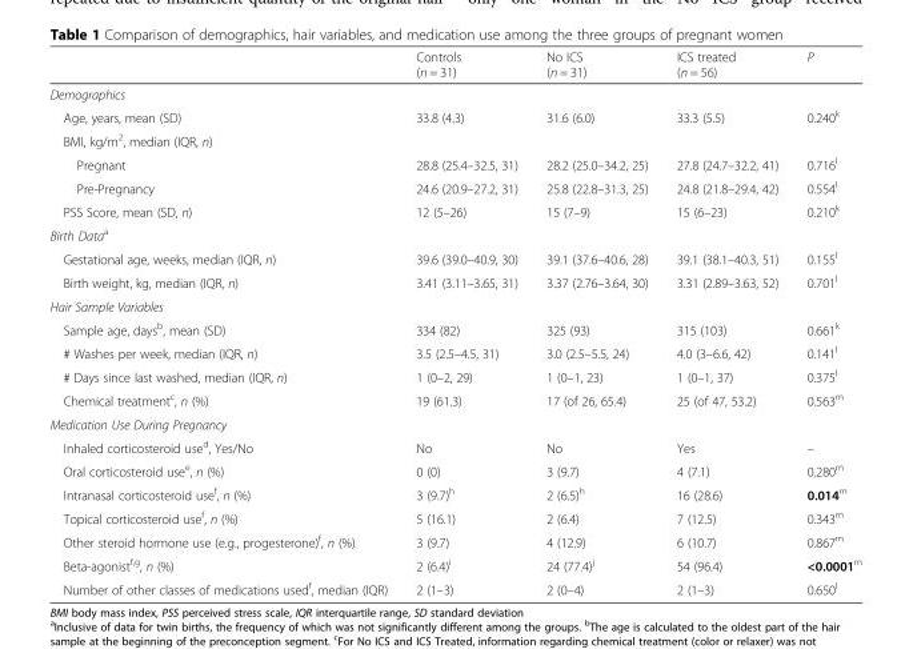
<table><thead><tr><td></td><td>Controls (n = 31)</td><td>No ICS (n = 31)</td><td>ICS treated (n = 56)</td><td>P</td></tr></thead><tbody><tr><td colspan="5">Demographics</td></tr><tr><td>Age, years, mean (SD)</td><td>33.8 (4.3)</td><td>31.6 (6.0)</td><td>33.3 (5.5)</td><td>0.240<sup>k</sup></td></tr><tr><td colspan="5">BMI, kg/m<sup>2</sup>, median (IQR, n)</td></tr><tr><td>Pregnant</td><td>28.8 (25.4–32.5, 31)</td><td>28.2 (25.0–34.2, 25)</td><td>27.8 (24.7–32.2, 41)</td><td>0.716<sup>l</sup></td></tr><tr><td>Pre-Pregnancy</td><td>24.6 (20.9–27.2, 31)</td><td>25.8 (22.8–31.3, 25)</td><td>24.8 (21.8–29.4, 42)</td><td>0.554<sup>l</sup></td></tr><tr><td>PSS Score, mean (SD, n)</td><td>12 (5–26)</td><td>15 (7–9)</td><td>15 (6–23)</td><td>0.210<sup>k</sup></td></tr><tr><td colspan="5">Birth Data<sup>a</sup></td></tr><tr><td>Gestational age, weeks, median (IQR, n)</td><td>39.6 (39.0–40.9, 30)</td><td>39.1 (37.6–40.6, 28)</td><td>39.1 (38.1–40.3, 51)</td><td>0.155<sup>l</sup></td></tr><tr><td>Birth weight, kg, median (IQR, n)</td><td>3.41 (3.11–3.65, 31)</td><td>3.37 (2.76–3.64, 30)</td><td>3.31 (2.89–3.63, 52)</td><td>0.701<sup>l</sup></td></tr><tr><td colspan="5">Hair Sample Variables</td></tr><tr><td>Sample age, days<sup>b</sup>, mean (SD)</td><td>334 (82)</td><td>325 (93)</td><td>315 (103)</td><td>0.661<sup>k</sup></td></tr><tr><td># Washes per week, median (IQR, n)</td><td>3.5 (2.5–4.5, 31)</td><td>3.0 (2.5–5.5, 24)</td><td>4.0 (3–6.6, 42)</td><td>0.141<sup>l</sup></td></tr><tr><td># Days since last washed, median (IQR, n)</td><td>1 (0–2, 29)</td><td>1 (0–1, 23)</td><td>1 (0–1, 37)</td><td>0.375<sup>l</sup></td></tr><tr><td>Chemical treatment<sup>c</sup>, n (%)</td><td>19 (61.3)</td><td>17 (of 26, 65.4)</td><td>25 (of 47, 53.2)</td><td>0.563<sup>m</sup></td></tr><tr><td colspan="5">Medication Use During Pregnancy</td></tr><tr><td>Inhaled corticosteroid use<sup>d</sup>, Yes/No</td><td>No</td><td>No</td><td>Yes</td><td>–</td></tr><tr><td>Oral corticosteroid use<sup>e</sup>, n (%)</td><td>0 (0)</td><td>3 (9.7)</td><td>4 (7.1)</td><td>0.280<sup>m</sup></td></tr><tr><td>Intranasal corticosteroid use<sup>f</sup>, n (%)</td><td>3 (9.7)<sup>h</sup></td><td>2 (6.5)<sup>h</sup></td><td>16 (28.6)</td><td>0.014<sup>m</sup></td></tr><tr><td>Topical corticosteroid use<sup>f</sup>, n (%)</td><td>5 (16.1)</td><td>2 (6.4)</td><td>7 (12.5)</td><td>0.343<sup>m</sup></td></tr><tr><td>Other steroid hormone use (e.g., progesterone)<sup>f</sup>, n (%)</td><td>3 (9.7)</td><td>4 (12.9)</td><td>6 (10.7)</td><td>0.867<sup>m</sup></td></tr><tr><td>Beta-agonist<sup>f,g</sup>, n (%)</td><td>2 (6.4)<sup>i</sup></td><td>24 (77.4)<sup>j</sup></td><td>54 (96.4)</td><td>&lt;0.0001<sup>m</sup></td></tr><tr><td>Number of other classes of medications used<sup>f</sup>, median (IQR)</td><td>2 (1–3)</td><td>2 (0–4)</td><td>2 (1–3)</td><td>0.650<sup>l</sup></td></tr></tbody></table>